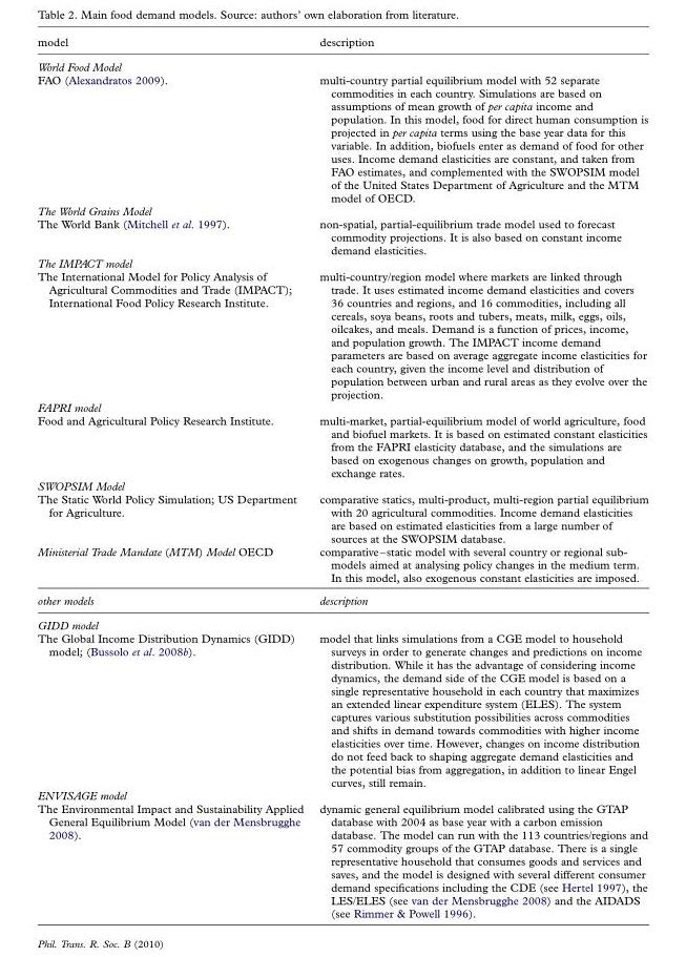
<table><thead><tr><td>model</td><td>description</td></tr></thead><tbody><tr><td colspan="2">World Food Model</td></tr><tr><td>FAO (Alexandratos 2009).</td><td>multi-country partial equilibrium model with 52 separate commodities in each country. Simulations are based on assumptions of mean growth of per capita income and population. In this model, food for direct human consumption is projected in per capita terms using the base year data for this variable. In addition, biofuels enter as demand of food for other uses. Income demand elasticities are constant, and taken from FAO estimates, and complemented with the SWOPSIM model of the United States Department of Agriculture and the MTM model of OECD.</td></tr><tr><td colspan="2">The World Grains Model</td></tr><tr><td>The World Bank (Mitchell et al. 1997).</td><td>non-spatial, partial-equilibrium trade model used to forecast commodity projections. It is also based on constant income demand elasticities.</td></tr><tr><td colspan="2">The IMPACT model</td></tr><tr><td>The International Model for Policy Analysis of Agricultural Commodities and Trade (IMPACT); International Food Policy Research Institute.</td><td>multi-country/region model where markets are linked through trade. It uses estimated income demand elasticities and covers 36 countries and regions, and 16 commodities, including all cereals, soya beans, roots and tubers, meats, milk, eggs, oils, oilcakes, and meals. Demand is a function of prices, income, and population growth. The IMPACT income demand parameters are based on average aggregate income elasticities for each country, given the income level and distribution of population between urban and rural areas as they evolve over the projection.</td></tr><tr><td colspan="2">FAPRI model</td></tr><tr><td>Food and Agricultural Policy Research Institute.</td><td>multi-market, partial-equilibrium model of world agriculture, food and biofuel markets. It is based on estimated constant elasticities from the FAPRI elasticity database, and the simulations are based on exogenous changes on growth, population and exchange rates.</td></tr><tr><td colspan="2">SWOPSIM Model</td></tr><tr><td>The Static World Policy Simulation; US Department for Agriculture.</td><td>comparative statics, multi-product, multi-region partial equilibrium with 20 agricultural commodities. Income demand elasticities are based on estimated elasticities from a large number of sources at the SWOPSIM database.</td></tr><tr><td>Ministerial Trade Mandate (MTM) Model OECD</td><td>comparative–static model with several country or regional sub- models aimed at analysing policy changes in the medium term. In this model, also exogenous constant elasticities are imposed.</td></tr><tr><td>other models</td><td>description</td></tr><tr><td colspan="2">GIDD model</td></tr><tr><td>The Global Income Distribution Dynamics (GIDD) model; (Bussolo et al. 2008b).</td><td>model that links simulations from a CGE model to household surveys in order to generate changes and predictions on income distribution. While it has the advantage of considering income dynamics, the demand side of the CGE model is based on a single representative household in each country that maximizes an extended linear expenditure system (ELES). The system captures various substitution possibilities across commodities and shifts in demand towards commodities with higher income elasticities over time. However, changes on income distribution do not feed back to shaping aggregate demand elasticities and the potential bias from aggregation, in addition to linear Engel curves, still remain.</td></tr><tr><td colspan="2">ENVISAGE model</td></tr><tr><td>The Environmental Impact and Sustainability Applied General Equilibrium Model (van der Mensbrugghe 2008).</td><td>dynamic general equilibrium model calibrated using the GTAP database with 2004 as base year with a carbon emission database. The model can run with the 113 countries/regions and 57 commodity groups of the GTAP database. There is a single representative household that consumes goods and services and saves, and the model is designed with several different consumer demand specifications including the CDE (see Hertel 1997), the LES/ELES (see van der Mensbrugghe 2008) and the AIDADS (see Rimmer &amp; Powell 1996).</td></tr></tbody></table>